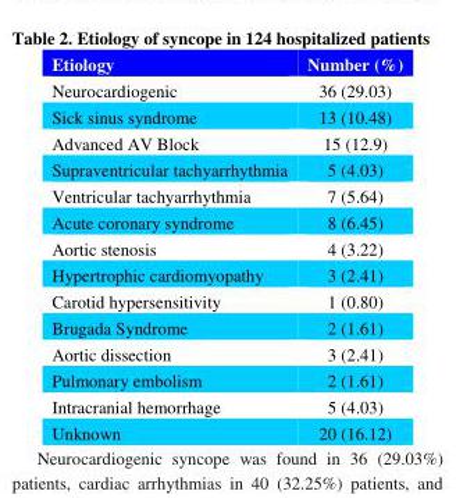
<table><thead><tr><td>Etiology</td><td>Number (%)</td></tr></thead><tbody><tr><td>Neurocardiogenic</td><td>36 (29.03)</td></tr><tr><td>Sick sinus syndrome</td><td>13 (10.48)</td></tr><tr><td>Advanced AV Block</td><td>15 (12.9)</td></tr><tr><td>Supraventricular tachyarrhythmia</td><td>5 (4.03)</td></tr><tr><td>Ventricular tachyarrhythmia</td><td>7 (5.64)</td></tr><tr><td>Acute coronary syndrome</td><td>8 (6.45)</td></tr><tr><td>Aortic stenosis</td><td>4 (3.22)</td></tr><tr><td>Hypertrophic cardiomyopathy</td><td>3 (2.41)</td></tr><tr><td>Carotid hypersensitivity</td><td>1 (0.80)</td></tr><tr><td>Brugada Syndrome</td><td>2 (1.61)</td></tr><tr><td>Aortic dissection</td><td>3 (2.41)</td></tr><tr><td>Pulmonary embolism</td><td>2 (1.61)</td></tr><tr><td>Intracranial hemorrhage</td><td>5 (4.03)</td></tr><tr><td>Unknown</td><td>20 (16.12)</td></tr></tbody></table>